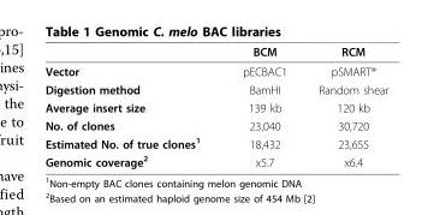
<table><thead><tr><td></td><td>BCM</td><td>RCM</td></tr></thead><tbody><tr><td>Vector</td><td>pECBAC1</td><td>pSMART<sup>®</sup></td></tr><tr><td>Digestion method</td><td>BamHI</td><td>Random shear</td></tr><tr><td>Average insert size</td><td>139 kb</td><td>120 kb</td></tr><tr><td>No. of clones</td><td>23,040</td><td>30,720</td></tr><tr><td>Estimated No. of true clones<sup>1</sup></td><td>18,432</td><td>23,655</td></tr><tr><td>Genomic coverage<sup>2</sup></td><td>x5.7</td><td>x6.4</td></tr></tbody></table>